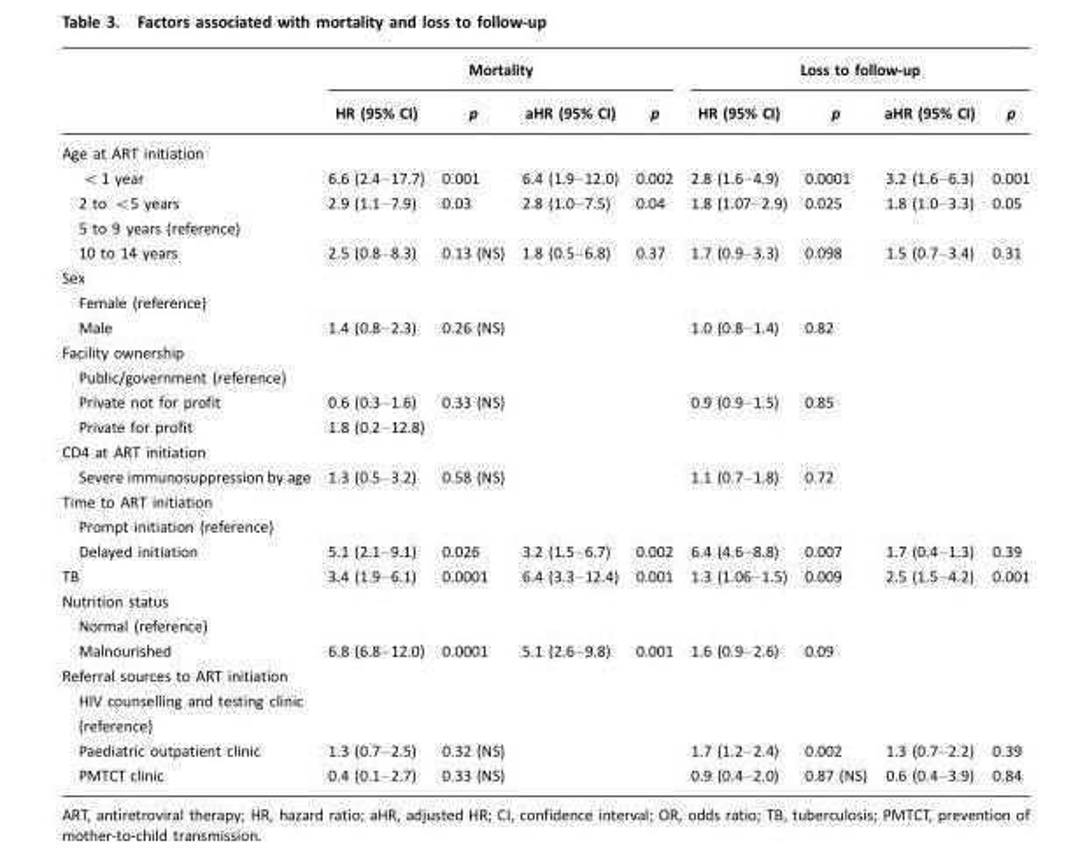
<table><thead><tr><td rowspan="2"></td><td colspan="4">Mortality</td><td colspan="4">Loss to follow-up</td></tr><tr><td>HR (95% CI)</td><td>p</td><td>aHR (95% CI)</td><td>p</td><td>HR (95% CI)</td><td>p</td><td>aHR (95% CI)</td><td>p</td></tr></thead><tbody><tr><td colspan="9">Age at ART initiation</td></tr><tr><td>&lt;1 year</td><td>6.6 (2.4–17.7)</td><td>0.001</td><td>6.4 (1.9–12.0)</td><td>0.002</td><td>2.8 (1.6–4.9)</td><td>0.0001</td><td>3.2 (1.6–6.3)</td><td>0.001</td></tr><tr><td>2 to &lt;5 years</td><td>2.9 (1.1–7.9)</td><td>0.03</td><td>2.8 (1.0–7.5)</td><td>0.04</td><td>1.8 (1.07–2.9)</td><td>0.025</td><td>1.8 (1.0–3.3)</td><td>0.05</td></tr><tr><td colspan="9">5 to 9 years (reference)</td></tr><tr><td>10 to 14 years</td><td>2.5 (0.8–8.3)</td><td>0.13 (NS)</td><td>1.8 (0.5–6.8)</td><td>0.37</td><td>1.7 (0.9–3.3)</td><td>0.098</td><td>1.5 (0.7–3.4)</td><td>0.31</td></tr><tr><td colspan="9">Sex</td></tr><tr><td colspan="9">Female (reference)</td></tr><tr><td>Male</td><td>1.4 (0.8–2.3)</td><td>0.26 (NS)</td><td></td><td></td><td>1.0 (0.8–1.4)</td><td>0.82</td><td></td><td></td></tr><tr><td colspan="9">Facility ownership</td></tr><tr><td colspan="9">Public/government (reference)</td></tr><tr><td>Private not for profit</td><td>0.6 (0.3–1.6)</td><td>0.33 (NS)</td><td></td><td></td><td>0.9 (0.9–1.5)</td><td>0.85</td><td></td><td></td></tr><tr><td>Private for profit</td><td>1.8 (0.2–12.8)</td><td></td><td></td><td></td><td></td><td></td><td></td><td></td></tr><tr><td colspan="9">CD4 at ART initiation</td></tr><tr><td>Severe immunosuppression by age</td><td>1.3 (0.5–3.2)</td><td>0.58 (NS)</td><td></td><td></td><td>1.1 (0.7–1.8)</td><td>0.72</td><td></td><td></td></tr><tr><td colspan="9">Time to ART initiation</td></tr><tr><td colspan="9">Prompt initiation (reference)</td></tr><tr><td>Delayed initiation</td><td>5.1 (2.1–9.1)</td><td>0.026</td><td>3.2 (1.5–6.7)</td><td>0.002</td><td>6.4 (4.6–8.8)</td><td>0.007</td><td>1.7 (0.4–1.3)</td><td>0.39</td></tr><tr><td>TB</td><td>3.4 (1.9–6.1)</td><td>0.0001</td><td>6.4 (3.3–12.4)</td><td>0.001</td><td>1.3 (1.06–1.5)</td><td>0.009</td><td>2.5 (1.5–4.2)</td><td>0.001</td></tr><tr><td colspan="9">Nutrition status</td></tr><tr><td colspan="9">Normal (reference)</td></tr><tr><td>Malnourished</td><td>6.8 (6.8–12.0)</td><td>0.0001</td><td>5.1 (2.6–9.8)</td><td>0.001</td><td>1.6 (0.9–2.6)</td><td>0.09</td><td></td><td></td></tr><tr><td colspan="9">Referral sources to ART initiation</td></tr><tr><td colspan="9">HIV counselling and testing clinic (reference)</td></tr><tr><td>Paediatric outpatient clinic</td><td>1.3 (0.7–2.5)</td><td>0.32 (NS)</td><td></td><td></td><td>1.7 (1.2–2.4)</td><td>0.002</td><td>1.3 (0.7–2.2)</td><td>0.39</td></tr><tr><td>PMTCT clinic</td><td>0.4 (0.1–2.7)</td><td>0.33 (NS)</td><td></td><td></td><td>0.9 (0.4–2.0)</td><td>0.87 (NS)</td><td>0.6 (0.4–3.9)</td><td>0.84</td></tr></tbody></table>